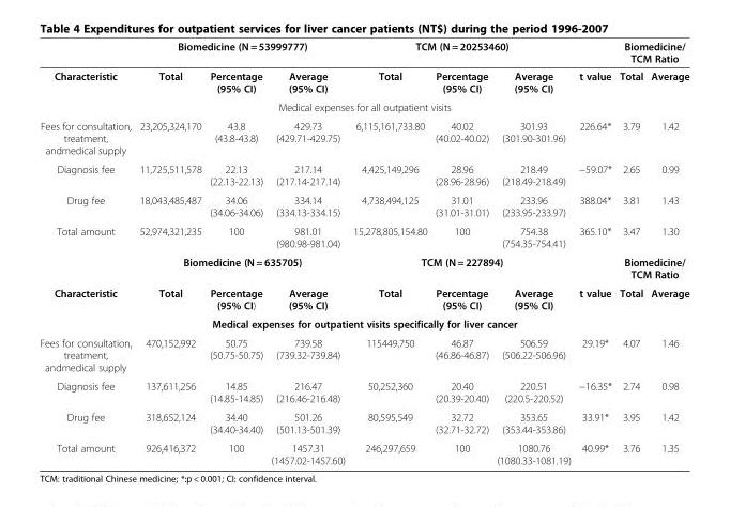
<table><thead><tr><td rowspan="2">Characteristic</td><td colspan="3">Biomedicine (N = 53999777)</td><td colspan="3">TCM (N = 20253460)</td><td rowspan="2">t value</td><td colspan="2">Biomedicine/ TCM Ratio</td></tr><tr><td>Total</td><td>Percentage (95% CI)</td><td>Average (95% CI)</td><td>Total</td><td>Percentage (95% CI)</td><td>Average (95% CI)</td><td>Total</td><td>Average</td></tr></thead><tbody><tr><td colspan="10">Medical expenses for all outpatient visits</td></tr><tr><td>Fees for consultation, treatment, andmedical supply</td><td>23,205,324,170</td><td>43.8 (43.8-43.8)</td><td>429.73 (429.71-429.75)</td><td>6,115,161,733.80</td><td>40.02 (40.02-40.02)</td><td>301.93 (301.90-301.96)</td><td>226.64*</td><td>3.79</td><td>1.42</td></tr><tr><td>Diagnosis fee</td><td>11,725,511,578</td><td>22.13 (22.13-22.13)</td><td>217.14 (217.14-217.14)</td><td>4,425,149,296</td><td>28.96 (28.96-28.96)</td><td>218.49 (218.49-218.49)</td><td>−59.07*</td><td>2.65</td><td>0.99</td></tr><tr><td>Drug fee</td><td>18,043,485,487</td><td>34.06 (34.06-34.06)</td><td>334.14 (334.13-334.15)</td><td>4,738,494,125</td><td>31.01 (31.01-31.01)</td><td>233.96 (233.95-233.97)</td><td>388.04*</td><td>3.81</td><td>1.43</td></tr><tr><td rowspan="2">Total amount</td><td>52,974,321,235</td><td>100</td><td>981.01 (980.98-981.04)</td><td>15,278,805,154.80</td><td>100</td><td>754.38 (754.35-754.41)</td><td>365.10*</td><td>3.47</td><td>1.30</td></tr><tr><td colspan="3">Biomedicine (N = 635705)</td><td colspan="3">TCM (N = 227894)</td><td></td><td colspan="2">Biomedicine/ TCM Ratio</td></tr><tr><td>Characteristic</td><td>Total</td><td>Percentage (95% CI)</td><td>Average (95% CI)</td><td>Total</td><td>Percentage (95% CI)</td><td>Average (95% CI)</td><td>t value</td><td>Total</td><td>Average</td></tr><tr><td colspan="10">Medical expenses for outpatient visits specifically for liver cancer</td></tr><tr><td>Fees for consultation, treatment, andmedical supply</td><td>470,152,992</td><td>50.75 (50.75-50.75)</td><td>739.58 (739.32-739.84)</td><td>115449,750</td><td>46.87 (46.86-46.87)</td><td>506.59 (506.22-506.96)</td><td>29.19*</td><td>4.07</td><td>1.46</td></tr><tr><td>Diagnosis fee</td><td>137,611,256</td><td>14.85 (14.85-14.85)</td><td>216.47 (216.46-216.48)</td><td>50,252,360</td><td>20.40 (20.39-20.40)</td><td>220.51 (220.5-220.52)</td><td>−16.35*</td><td>2.74</td><td>0.98</td></tr><tr><td>Drug fee</td><td>318,652,124</td><td>34.40 (34.40-34.40)</td><td>501.26 (501.13-501.39)</td><td>80,595,549</td><td>32.72 (32.71-32.72)</td><td>353.65 (353.44-353.86)</td><td>33.91*</td><td>3.95</td><td>1.42</td></tr><tr><td>Total amount</td><td>926,416,372</td><td>100</td><td>1457.31 (1457.02-1457.60)</td><td>246,297,659</td><td>100</td><td>1080.76 (1080.33-1081.19)</td><td>40.99*</td><td>3.76</td><td>1.35</td></tr></tbody></table>